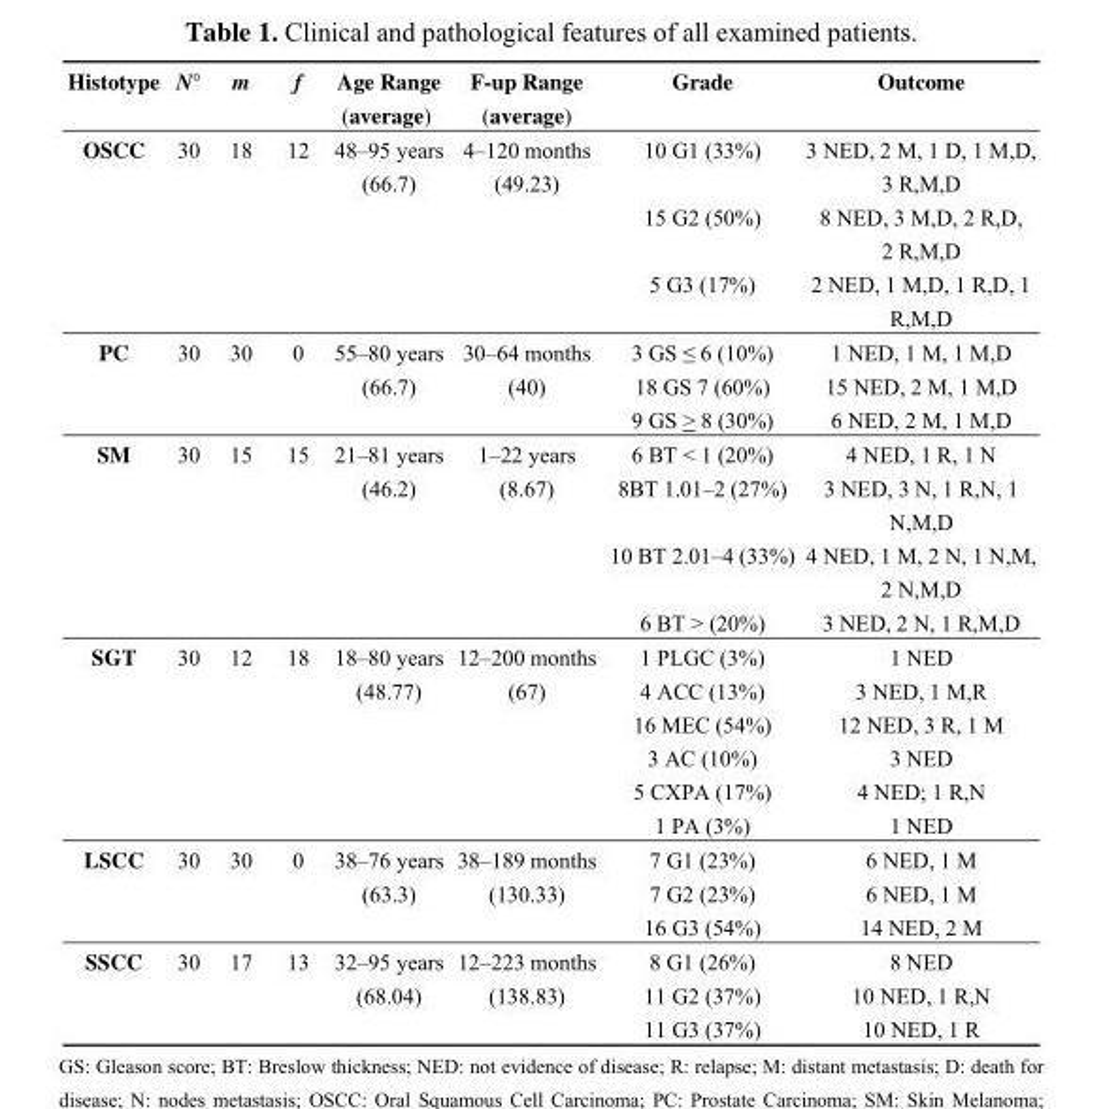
<table><thead><tr><td>Histotype</td><td>N°</td><td>m</td><td>f</td><td>Age Range (average)</td><td>F-up Range (average)</td><td>Grade</td><td>Outcome</td></tr></thead><tbody><tr><td rowspan="3">OSCC</td><td rowspan="3">30</td><td rowspan="3">18</td><td rowspan="3">12</td><td rowspan="3">48–95 years (66.7)</td><td rowspan="3">4–120 months (49.23)</td><td>10 G1 (33%)</td><td>3 NED, 2 M, 1 D, 1 M,D, 3 R,M,D</td></tr><tr><td>15 G2 (50%)</td><td>8 NED, 3 M,D, 2 R,D, 2 R,M,D</td></tr><tr><td>5 G3 (17%)</td><td>2 NED, 1 M,D, 1 R,D, 1 R,M,D</td></tr><tr><td rowspan="3">PC</td><td rowspan="3">30</td><td rowspan="3">30</td><td rowspan="3">0</td><td rowspan="3">55–80 years (66.7)</td><td rowspan="3">30–64 months (40)</td><td>3 GS ≤ 6 (10%)</td><td>1 NED, 1 M, 1 M,D</td></tr><tr><td>18 GS 7 (60%)</td><td>15 NED, 2 M, 1 M,D</td></tr><tr><td>9 GS &gt; 8 (30%)</td><td>6 NED, 2 M, 1 M,D</td></tr><tr><td rowspan="4">SM</td><td rowspan="4">30</td><td rowspan="4">15</td><td rowspan="4">15</td><td rowspan="4">21–81 years (46.2)</td><td rowspan="4">1–22 years (8.67)</td><td>6 BT &lt; 1 (20%)</td><td>4 NED, 1 R, 1 N</td></tr><tr><td>8BT 1.01–2 (27%)</td><td>3 NED, 3 N, 1 R,N, 1 N,M,D</td></tr><tr><td>10 BT 2.01–4 (33%)</td><td>4 NED, 1 M, 2 N, 1 N,M, 2 N,M,D</td></tr><tr><td>6 BT &gt; (20%)</td><td>3 NED, 2 N, 1 R,M,D</td></tr><tr><td rowspan="6">SGT</td><td rowspan="6">30</td><td rowspan="6">12</td><td rowspan="6">18</td><td rowspan="6">18–80 years (48.77)</td><td rowspan="6">12–200 months (67)</td><td>1 PLGC (3%)</td><td>1 NED</td></tr><tr><td>4 ACC (13%)</td><td>3 NED, 1 M,R</td></tr><tr><td>16 MEC (54%)</td><td>12 NED, 3 R, 1 M</td></tr><tr><td>3 AC (10%)</td><td>3 NED</td></tr><tr><td>5 CXPA (17%)</td><td>4 NED; 1 R,N</td></tr><tr><td>1 PA (3%)</td><td>1 NED</td></tr><tr><td rowspan="3">LSCC</td><td rowspan="3">30</td><td rowspan="3">30</td><td rowspan="3">0</td><td rowspan="3">38–76 years (63.3)</td><td rowspan="3">38–189 months (130.33)</td><td>7 G1 (23%)</td><td>6 NED, 1 M</td></tr><tr><td>7 G2 (23%)</td><td>6 NED, 1 M</td></tr><tr><td>16 G3 (54%)</td><td>14 NED, 2 M</td></tr><tr><td rowspan="3">SSCC</td><td rowspan="3">30</td><td rowspan="3">17</td><td rowspan="3">13</td><td rowspan="3">32–95 years (68.04)</td><td rowspan="3">12–223 months (138.83)</td><td>8 G1 (26%)</td><td>8 NED</td></tr><tr><td>11 G2 (37%)</td><td>10 NED, 1 R,N</td></tr><tr><td>11 G3 (37%)</td><td>10 NED, 1 R</td></tr></tbody></table>